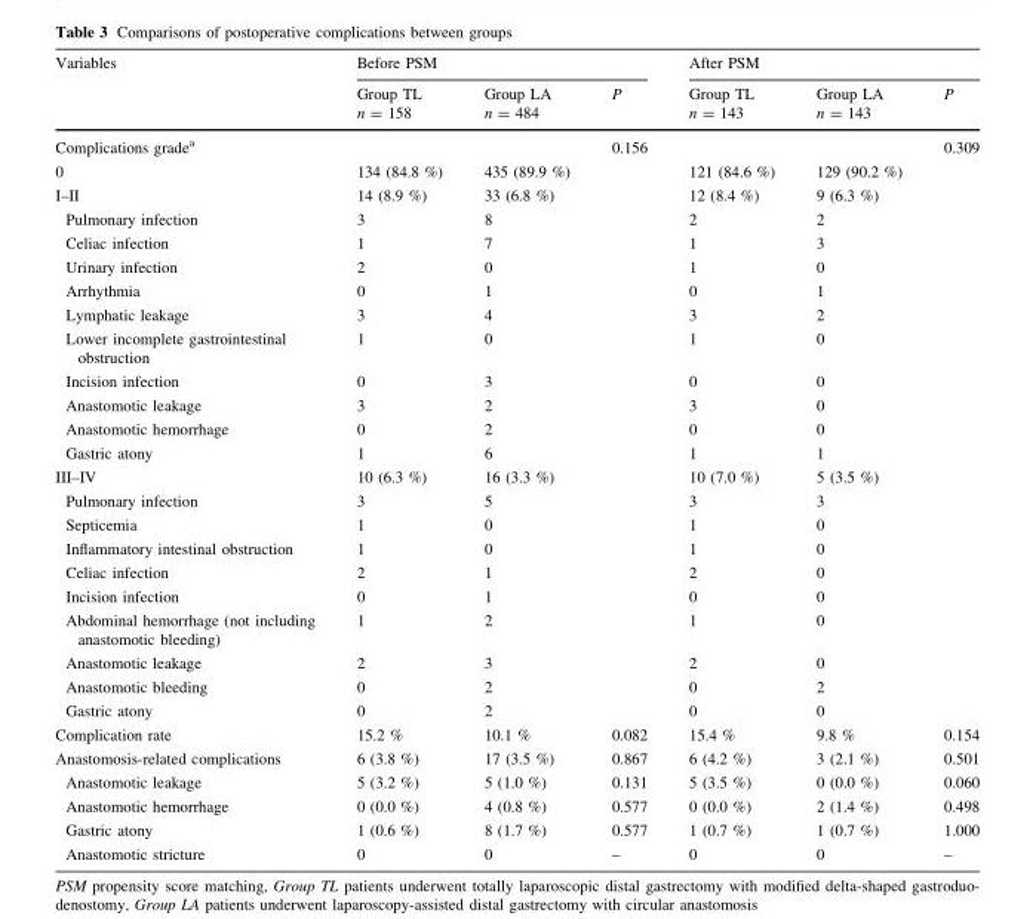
<table><thead><tr><td rowspan="2">Variables</td><td colspan="3">Before PSM</td><td colspan="3">After PSM</td></tr><tr><td>Group TL n = 158</td><td>Group LA n = 484</td><td>P</td><td>Group TL n = 143</td><td>Group LA n = 143</td><td>P</td></tr></thead><tbody><tr><td>Complications grade<sup>a</sup></td><td></td><td></td><td>0.156</td><td></td><td></td><td>0.309</td></tr><tr><td>0</td><td>134 (84.8 %)</td><td>435 (89.9 %)</td><td></td><td>121 (84.6 %)</td><td>129 (90.2 %)</td><td></td></tr><tr><td>I–II</td><td>14 (8.9 %)</td><td>33 (6.8 %)</td><td></td><td>12 (8.4 %)</td><td>9 (6.3 %)</td><td></td></tr><tr><td>Pulmonary infection</td><td>3</td><td>8</td><td></td><td>2</td><td>2</td><td></td></tr><tr><td>Celiac infection</td><td>1</td><td>7</td><td></td><td>1</td><td>3</td><td></td></tr><tr><td>Urinary infection</td><td>2</td><td>0</td><td></td><td>1</td><td>0</td><td></td></tr><tr><td>Arrhythmia</td><td>0</td><td>1</td><td></td><td>0</td><td>1</td><td></td></tr><tr><td>Lymphatic leakage</td><td>3</td><td>4</td><td></td><td>3</td><td>2</td><td></td></tr><tr><td>Lower incomplete gastrointestinal obstruction</td><td>1</td><td>0</td><td></td><td>1</td><td>0</td><td></td></tr><tr><td>Incision infection</td><td>0</td><td>3</td><td></td><td>0</td><td>0</td><td></td></tr><tr><td>Anastomotic leakage</td><td>3</td><td>2</td><td></td><td>3</td><td>0</td><td></td></tr><tr><td>Anastomotic hemorrhage</td><td>0</td><td>2</td><td></td><td>0</td><td>0</td><td></td></tr><tr><td>Gastric atony</td><td>1</td><td>6</td><td></td><td>1</td><td>1</td><td></td></tr><tr><td>III–IV</td><td>10 (6.3 %)</td><td>16 (3.3 %)</td><td></td><td>10 (7.0 %)</td><td>5 (3.5 %)</td><td></td></tr><tr><td>Pulmonary infection</td><td>3</td><td>5</td><td></td><td>3</td><td>3</td><td></td></tr><tr><td>Septicemia</td><td>1</td><td>0</td><td></td><td>1</td><td>0</td><td></td></tr><tr><td>Inflammatory intestinal obstruction</td><td>1</td><td>0</td><td></td><td>1</td><td>0</td><td></td></tr><tr><td>Celiac infection</td><td>2</td><td>1</td><td></td><td>2</td><td>0</td><td></td></tr><tr><td>Incision infection</td><td>0</td><td>1</td><td></td><td>0</td><td>0</td><td></td></tr><tr><td>Abdominal hemorrhage (not including anastomotic bleeding)</td><td>1</td><td>2</td><td></td><td>1</td><td>0</td><td></td></tr><tr><td>Anastomotic leakage</td><td>2</td><td>3</td><td></td><td>2</td><td>0</td><td></td></tr><tr><td>Anastomotic bleeding</td><td>0</td><td>2</td><td></td><td>0</td><td>2</td><td></td></tr><tr><td>Gastric atony</td><td>0</td><td>2</td><td></td><td>0</td><td>0</td><td></td></tr><tr><td>Complication rate</td><td>15.2 %</td><td>10.1 %</td><td>0.082</td><td>15.4 %</td><td>9.8 %</td><td>0.154</td></tr><tr><td>Anastomosis-related complications</td><td>6 (3.8 %)</td><td>17 (3.5 %)</td><td>0.867</td><td>6 (4.2 %)</td><td>3 (2.1 %)</td><td>0.501</td></tr><tr><td>Anastomotic leakage</td><td>5 (3.2 %)</td><td>5 (1.0 %)</td><td>0.131</td><td>5 (3.5 %)</td><td>0 (0.0 %)</td><td>0.060</td></tr><tr><td>Anastomotic hemorrhage</td><td>0 (0.0 %)</td><td>4 (0.8 %)</td><td>0.577</td><td>0 (0.0 %)</td><td>2 (1.4 %)</td><td>0.498</td></tr><tr><td>Gastric atony</td><td>1 (0.6 %)</td><td>8 (1.7 %)</td><td>0.577</td><td>1 (0.7 %)</td><td>1 (0.7 %)</td><td>1.000</td></tr><tr><td>Anastomotic stricture</td><td>0</td><td>0</td><td>–</td><td>0</td><td>0</td><td>–</td></tr></tbody></table>